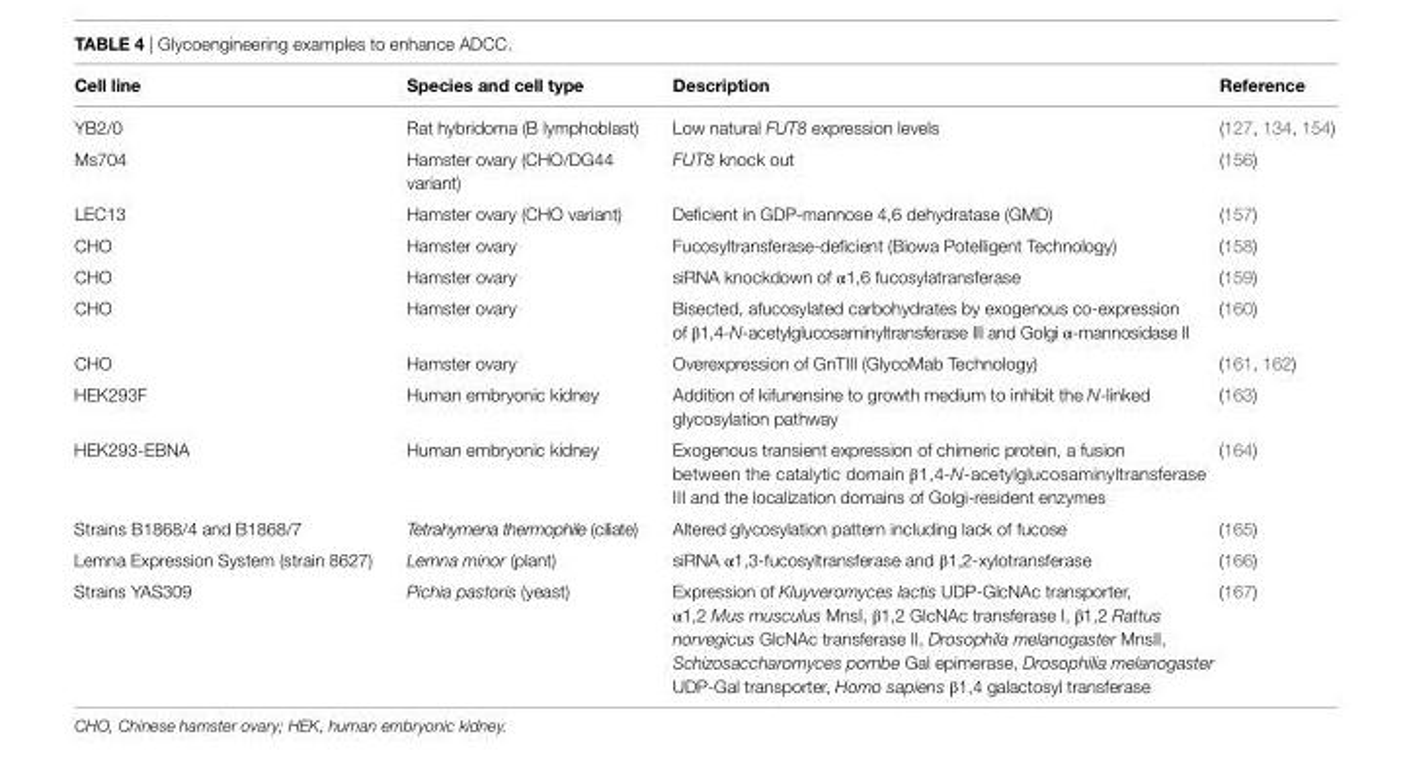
<table><thead><tr><td>Cell line</td><td>Species and cell type</td><td>Description</td><td>Reference</td></tr></thead><tbody><tr><td>YB2/0</td><td>Rat hybridoma (B lymphoblast)</td><td>Low natural FUT8 expression levels</td><td>(127, 134, 154)</td></tr><tr><td>Ms704</td><td>Hamster ovary (CHO/DG44 variant)</td><td>FUT8 knock out</td><td>(156)</td></tr><tr><td>LEC13</td><td>Hamster ovary (CHO variant)</td><td>Deficient in GDP-mannose 4,6 dehydratase (GMD)</td><td>(157)</td></tr><tr><td>CHO</td><td>Hamster ovary</td><td>Fucosyltransferase-deficient (Biowa Potelligent Technology)</td><td>(158)</td></tr><tr><td>CHO</td><td>Hamster ovary</td><td>siRNA knockdown of α1,6 fucosylatransferase</td><td>(159)</td></tr><tr><td>CHO</td><td>Hamster ovary</td><td>Bisected, afucosylated carbohydrates by exogenous co-expression of β1,4-N-acetylglucosaminyltransferase III and Golgi α-mannosidase II</td><td>(160)</td></tr><tr><td>CHO</td><td>Hamster ovary</td><td>Overexpression of GnTIII (GlycoMab Technology)</td><td>(161, 162)</td></tr><tr><td>HEK293F</td><td>Human embryonic kidney</td><td>Addition of kifunensine to growth medium to inhibit the N-linked glycosylation pathway</td><td>(163)</td></tr><tr><td>HEK293-EBNA</td><td>Human embryonic kidney</td><td>Exogenous transient expression of chimeric protein, a fusion between the catalytic domain β1,4-N-acetylgluco saminyl transferase III and the localization domains of Golgi-resident enzymes</td><td>(164)</td></tr><tr><td>Strains B1868/4 and B1868/7</td><td>Tetrahymena thermophile (ciliate)</td><td>Altered glycosylation pattern including lack of fucose</td><td>(165)</td></tr><tr><td>Lemna Expression System (strain 8627)</td><td>Lemna minor (plant)</td><td>siRNA α1,3-fucosyltransferase and β1,2-xylotransferase</td><td>(166)</td></tr><tr><td>Strains YAS309</td><td>Pichia pastoris (yeast)</td><td>Expression of Kluyveromyces lactis UDP-GlcNAc transporter, α1,2 Mus musculus MnsI, β1,2 GlcNAc transferase I, β1,2 Rattus norvegicus GlcNAc transferase II, Drosophila melanogaster MnsII, Schizosaccharomyces pombe Gal epimerase, Drosophilia melanogaster UDP-Gal transporter, Homo sapiens β1,4 galactosyl transferase</td><td>(167)</td></tr></tbody></table>